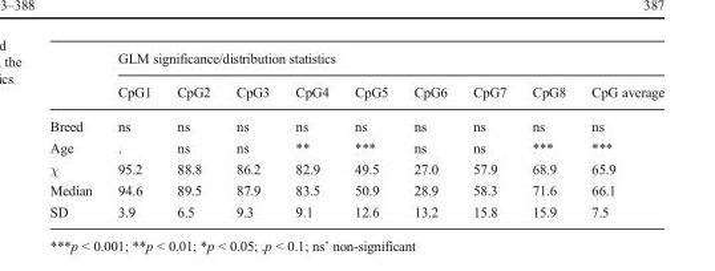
<table><thead><tr><td rowspan="2"></td><td colspan="9">GLM significance/distribution statistics</td></tr><tr><td>CpG1</td><td>CpG2</td><td>CpG3</td><td>CpG4</td><td>CpG5</td><td>CpG6</td><td>CpG7</td><td>CpG8</td><td>CpG average</td></tr></thead><tbody><tr><td>Breed</td><td>ns</td><td>ns</td><td>ns</td><td>ns</td><td>ns</td><td>ns</td><td>ns</td><td>ns</td><td>ns</td></tr><tr><td>Age</td><td>.</td><td>ns</td><td>ns</td><td>**</td><td>***</td><td>ns</td><td>ns</td><td>***</td><td>***</td></tr><tr><td>χ</td><td>95.2</td><td>88.8</td><td>86.2</td><td>82.9</td><td>49.5</td><td>27.0</td><td>57.9</td><td>68.9</td><td>65.9</td></tr><tr><td>Median</td><td>94.6</td><td>89.5</td><td>87.9</td><td>83.5</td><td>50.9</td><td>28.9</td><td>58.3</td><td>71.6</td><td>66.1</td></tr><tr><td>SD</td><td>3.9</td><td>6.5</td><td>9.3</td><td>9.1</td><td>12.6</td><td>13.2</td><td>15.8</td><td>15.9</td><td>7.5</td></tr></tbody></table>